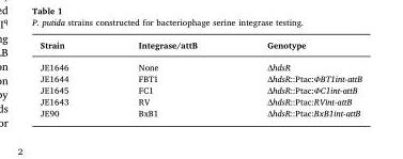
<table><thead><tr><td>Strain</td><td>Integrase/attB</td><td>Genotype</td></tr></thead><tbody><tr><td>JE1646</td><td>None</td><td>ΔhdsR</td></tr><tr><td>JE1644</td><td>FBT1</td><td>ΔhdsR::Ptac:ΦBT1int-attB</td></tr><tr><td>JE1645</td><td>FC1</td><td>ΔhdsR::Ptac:ΦC1int-attB</td></tr><tr><td>JE1643</td><td>RV</td><td>ΔhdsR::Ptac:RVint-attB</td></tr><tr><td>JE90</td><td>BxB1</td><td>ΔhdsR::Ptac:BxB1int-attB</td></tr></tbody></table>